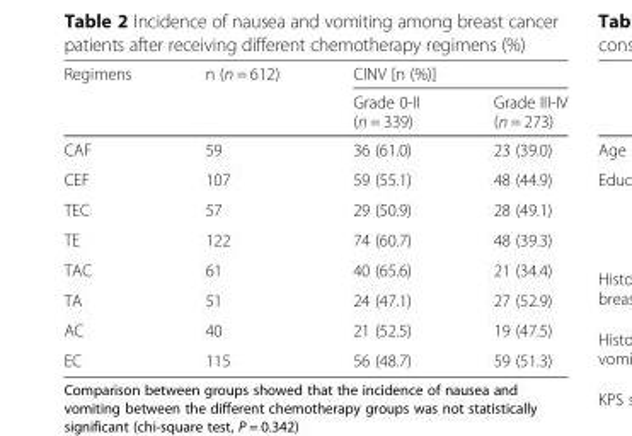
<table><thead><tr><td rowspan="2">Regimens</td><td rowspan="2">n (n = 612)</td><td colspan="2">CINV [n (%)]</td></tr><tr><td>Grade 0-II (n = 339)</td><td>Grade III-IV (n = 273)</td></tr></thead><tbody><tr><td>CAF</td><td>59</td><td>36 (61.0)</td><td>23 (39.0)</td></tr><tr><td>CEF</td><td>107</td><td>59 (55.1)</td><td>48 (44.9)</td></tr><tr><td>TEC</td><td>57</td><td>29 (50.9)</td><td>28 (49.1)</td></tr><tr><td>TE</td><td>122</td><td>74 (60.7)</td><td>48 (39.3)</td></tr><tr><td>TAC</td><td>61</td><td>40 (65.6)</td><td>21 (34.4)</td></tr><tr><td>TA</td><td>51</td><td>24 (47.1)</td><td>27 (52.9)</td></tr><tr><td>AC</td><td>40</td><td>21 (52.5)</td><td>19 (47.5)</td></tr><tr><td>EC</td><td>115</td><td>56 (48.7)</td><td>59 (51.3)</td></tr></tbody></table>